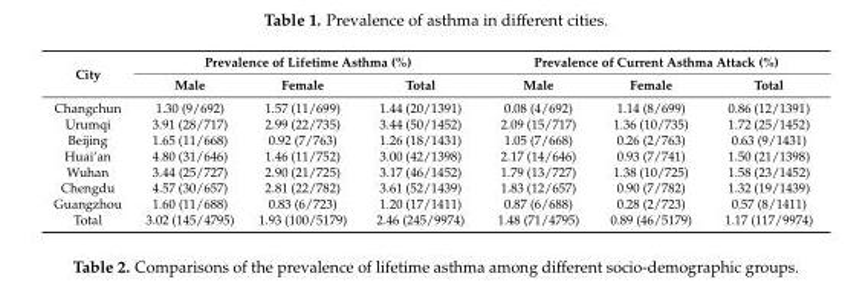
<table><thead><tr><td rowspan="2">City</td><td colspan="3">Prevalence of Lifetime Asthma (%)</td><td colspan="3">Prevalence of Current Asthma Attack (%)</td></tr><tr><td>Male</td><td>Female</td><td>Total</td><td>Male</td><td>Female</td><td>Total</td></tr></thead><tbody><tr><td>Changchun</td><td>1.30 (9/692)</td><td>1.57 (11/699)</td><td>1.44 (20/1391)</td><td>0.08 (4/692)</td><td>1.14 (8/699)</td><td>0.86 (12/1391)</td></tr><tr><td>Urumqi</td><td>3.91 (28/717)</td><td>2.99 (22/735)</td><td>3.44 (50/1452)</td><td>2.09 (15/717)</td><td>1.36 (10/735)</td><td>1.72 (25/1452)</td></tr><tr><td>Beijing</td><td>1.65 (11/668)</td><td>0.92 (7/763)</td><td>1.26 (18/1431)</td><td>1.05 (7/668)</td><td>0.26 (2/763)</td><td>0.63 (9/1431)</td></tr><tr><td>Huai’an</td><td>4.80 (31/646)</td><td>1.46 (11/752)</td><td>3.00 (42/1398)</td><td>2.17 (14/646)</td><td>0.93 (7/741)</td><td>1.50 (21/1398)</td></tr><tr><td>Wuhan</td><td>3.44 (25/727)</td><td>2.90 (21/725)</td><td>3.17 (46/1452)</td><td>1.79 (13/727)</td><td>1.38 (10/725)</td><td>1.58 (23/1452)</td></tr><tr><td>Chengdu</td><td>4.57 (30/657)</td><td>2.81 (22/782)</td><td>3.61 (52/1439)</td><td>1.83 (12/657)</td><td>0.90 (7/782)</td><td>1.32 (19/1439)</td></tr><tr><td>Guangzhou</td><td>1.60 (11/688)</td><td>0.83 (6/723)</td><td>1.20 (17/1411)</td><td>0.87 (6/688)</td><td>0.28 (2/723)</td><td>0.57 (8/1411)</td></tr><tr><td>Total</td><td>3.02 (145/4795)</td><td>1.93 (100/5179)</td><td>2.46 (245/9974)</td><td>1.48 (71/4795)</td><td>0.89 (46/5179)</td><td>1.17 (117/9974)</td></tr></tbody></table>